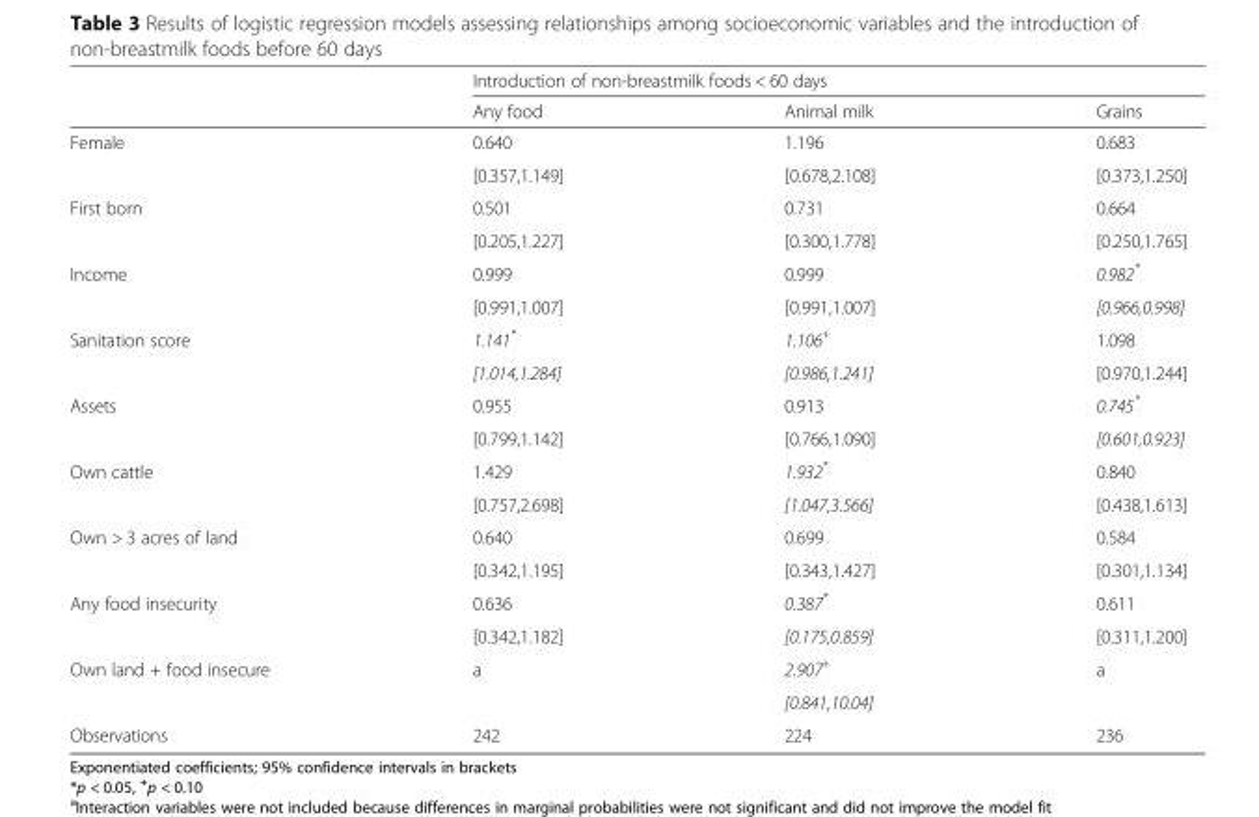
<table><thead><tr><td rowspan="2"></td><td colspan="3">Introduction of non-breastmilk foods &lt; 60 days</td></tr><tr><td>Any food</td><td>Animal milk</td><td>Grains</td></tr></thead><tbody><tr><td rowspan="2">Female</td><td>0.640</td><td>1.196</td><td>0.683</td></tr><tr><td>[0.357,1.149]</td><td>[0.678,2.108]</td><td>[0.373,1.250]</td></tr><tr><td rowspan="2">First born</td><td>0.501</td><td>0.731</td><td>0.664</td></tr><tr><td>[0.205,1.227]</td><td>[0.300,1.778]</td><td>[0.250,1.765]</td></tr><tr><td rowspan="2">Income</td><td>0.999</td><td>0.999</td><td>0.982*</td></tr><tr><td>[0.991,1.007]</td><td>[0.991,1.007]</td><td>[0.966,0.998]</td></tr><tr><td rowspan="2">Sanitation score</td><td>1.141*</td><td>1.106<sup>+</sup></td><td>1.098</td></tr><tr><td>[1.014,1.284]</td><td>[0.986,1.241]</td><td>[0.970,1.244]</td></tr><tr><td rowspan="2">Assets</td><td>0.955</td><td>0.913</td><td>0.745*</td></tr><tr><td>[0.799,1.142]</td><td>[0.766,1.090]</td><td>[0.601,0.923]</td></tr><tr><td rowspan="2">Own cattle</td><td>1.429</td><td>1.932*</td><td>0.840</td></tr><tr><td>[0.757,2.698]</td><td>[1.047,3.566]</td><td>[0.438,1.613]</td></tr><tr><td rowspan="2">Own &gt; 3 acres of land</td><td>0.640</td><td>0.699</td><td>0.584</td></tr><tr><td>[0.342,1.195]</td><td>[0.343,1.427]</td><td>[0.301,1.134]</td></tr><tr><td rowspan="2">Any food insecurity</td><td>0.636</td><td>0.387*</td><td>0.611</td></tr><tr><td>[0.342,1.182]</td><td>[0.175,0.859]</td><td>[0.311,1.200]</td></tr><tr><td rowspan="2">Own land + food insecure</td><td>a</td><td>2.907<sup>+</sup></td><td>a</td></tr><tr><td></td><td>[0.841,10.04]</td><td></td></tr><tr><td>Observations</td><td>242</td><td>224</td><td>236</td></tr></tbody></table>